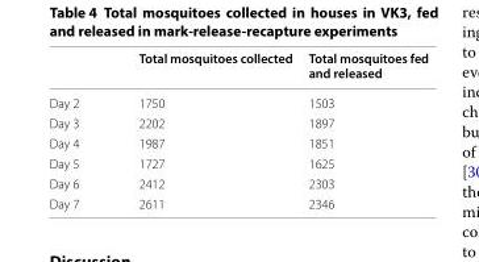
<table><thead><tr><td></td><td>Total mosquitoes collected</td><td>Total mosquitoes fed and released</td></tr></thead><tbody><tr><td>Day 2</td><td>1750</td><td>1503</td></tr><tr><td>Day 3</td><td>2202</td><td>1897</td></tr><tr><td>Day 4</td><td>1987</td><td>1851</td></tr><tr><td>Day 5</td><td>1727</td><td>1625</td></tr><tr><td>Day 6</td><td>2412</td><td>2303</td></tr><tr><td>Day 7</td><td>2611</td><td>2346</td></tr></tbody></table>